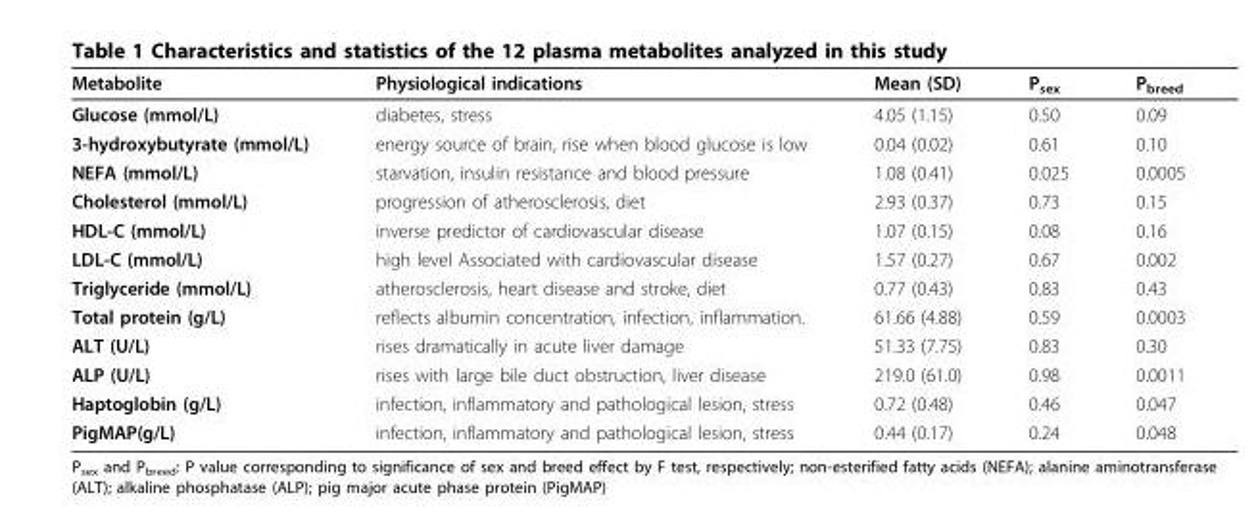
<table><thead><tr><td>Metabolite</td><td>Physiological indications</td><td>Mean (SD)</td><td>P<sub>sex</sub></td><td>P<sub>breed</sub></td></tr></thead><tbody><tr><td>Glucose (mmol/L)</td><td>diabetes, stress</td><td>4.05 (1.15)</td><td>0.50</td><td>0.09</td></tr><tr><td>3-hydroxybutyrate (mmol/L)</td><td>energy source of brain, rise when blood glucose is low</td><td>0.04 (0.02)</td><td>0.61</td><td>0.10</td></tr><tr><td>NEFA (mmol/L)</td><td>starvation, insulin resistance and blood pressure</td><td>1.08 (0.41)</td><td>0.025</td><td>0.0005</td></tr><tr><td>Cholesterol (mmol/L)</td><td>progression of atherosclerosis, diet</td><td>2.93 (0.37)</td><td>0.73</td><td>0.15</td></tr><tr><td>HDL-C (mmol/L)</td><td>inverse predictor of cardiovascular disease</td><td>1.07 (0.15)</td><td>0.08</td><td>0.16</td></tr><tr><td>LDL-C (mmol/L)</td><td>high level Associated with cardiovascular disease</td><td>1.57 (0.27)</td><td>0.67</td><td>0.002</td></tr><tr><td>Triglyceride (mmol/L)</td><td>atherosclerosis, heart disease and stroke, diet</td><td>0.77 (0.43)</td><td>0.83</td><td>0.43</td></tr><tr><td>Total protein (g/L)</td><td>reflects albumin concentration, infection, inflammation.</td><td>61.66 (4.88)</td><td>0.59</td><td>0.0003</td></tr><tr><td>ALT (U/L)</td><td>rises dramatically in acute liver damage</td><td>51.33 (7.75)</td><td>0.83</td><td>0.30</td></tr><tr><td>ALP (U/L)</td><td>rises with large bile duct obstruction, liver disease</td><td>219.0 (61.0)</td><td>0.98</td><td>0.0011</td></tr><tr><td>Haptoglobin (g/L)</td><td>infection, inflammatory and pathological lesion, stress</td><td>0.72 (0.48)</td><td>0.46</td><td>0.047</td></tr><tr><td>PigMAP(g/L)</td><td>infection, inflammatory and pathological lesion, stress</td><td>0.44 (0.17)</td><td>0.24</td><td>0.048</td></tr></tbody></table>